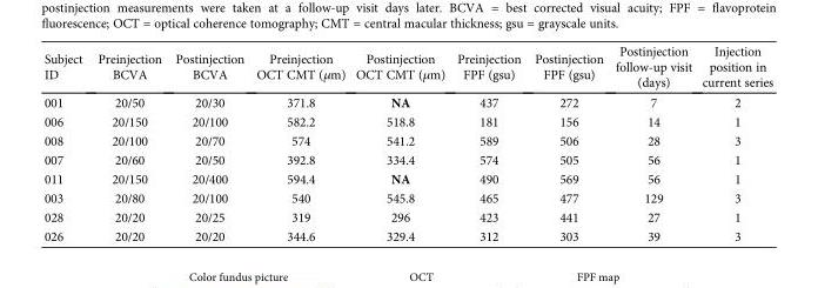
<table><thead><tr><td>Subject ID</td><td>Preinjection BCVA</td><td>Postinjection BCVA</td><td>Preinjection OCT CMT (μm)</td><td>Postinjection OCT CMT (μm)</td><td>Preinjection FPF (gsu)</td><td>Postinjection FPF (gsu)</td><td>Postinjection follow-up visit (days)</td><td>Injection position in current series</td></tr></thead><tbody><tr><td>001</td><td>20/50</td><td>20/30</td><td>371.8</td><td>NA</td><td>437</td><td>272</td><td>7</td><td>2</td></tr><tr><td>006</td><td>20/150</td><td>20/100</td><td>582.2</td><td>518.8</td><td>181</td><td>156</td><td>14</td><td>1</td></tr><tr><td>008</td><td>20/100</td><td>20/70</td><td>574</td><td>541.2</td><td>589</td><td>506</td><td>28</td><td>3</td></tr><tr><td>007</td><td>20/60</td><td>20/50</td><td>392.8</td><td>334.4</td><td>574</td><td>505</td><td>56</td><td>1</td></tr><tr><td>011</td><td>20/150</td><td>20/400</td><td>594.4</td><td>NA</td><td>490</td><td>569</td><td>56</td><td>1</td></tr><tr><td>003</td><td>20/80</td><td>20/100</td><td>540</td><td>545.8</td><td>465</td><td>477</td><td>129</td><td>3</td></tr><tr><td>028</td><td>20/20</td><td>20/25</td><td>319</td><td>296</td><td>423</td><td>441</td><td>27</td><td>1</td></tr><tr><td>026</td><td>20/20</td><td>20/20</td><td>344.6</td><td>329.4</td><td>312</td><td>303</td><td>39</td><td>3</td></tr></tbody></table>